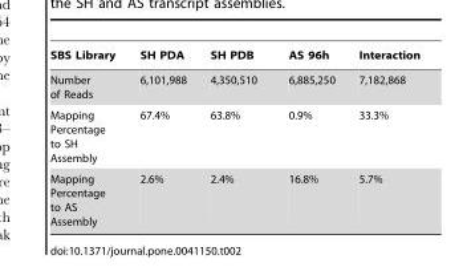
<table><thead><tr><td>SBS Library</td><td>SH PDA</td><td>SH PDB</td><td>AS 96h</td><td>Interaction</td></tr></thead><tbody><tr><td>Number of Reads</td><td>6,101,988</td><td>4,350,510</td><td>6,885,250</td><td>7,182,868</td></tr><tr><td>Mapping Percentage to SH Assembly</td><td>67.4%</td><td>63.8%</td><td>0.9%</td><td>33.3%</td></tr><tr><td>Mapping Percentage to AS Assembly</td><td>2.6%</td><td>2.4%</td><td>16.8%</td><td>5.7%</td></tr></tbody></table>